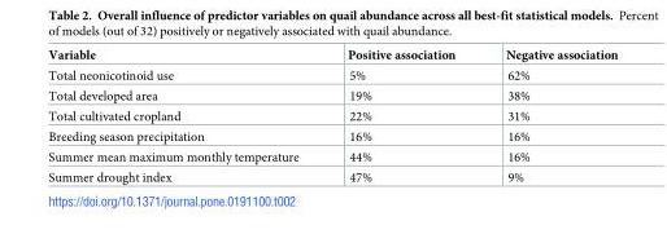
<table><thead><tr><td>Variable</td><td>Positive association</td><td>Negative association</td></tr></thead><tbody><tr><td>Total neonicotinoid use</td><td>5%</td><td>62%</td></tr><tr><td>Total developed area</td><td>19%</td><td>38%</td></tr><tr><td>Total cultivated cropland</td><td>22%</td><td>31%</td></tr><tr><td>Breeding season precipitation</td><td>16%</td><td>16%</td></tr><tr><td>Summer mean maximum monthly temperature</td><td>44%</td><td>16%</td></tr><tr><td>Summer drought index</td><td>47%</td><td>9%</td></tr></tbody></table>